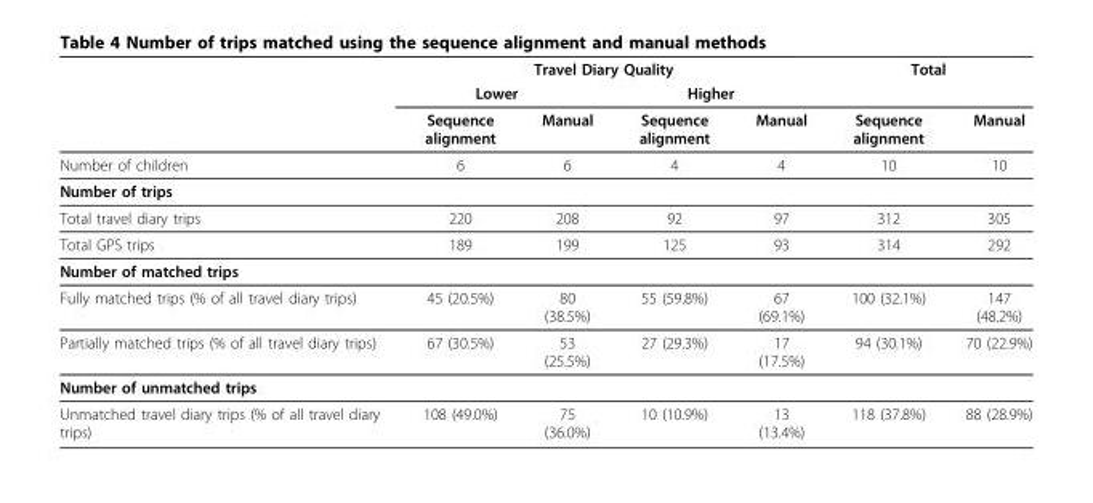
<table><thead><tr><td rowspan="3"></td><td colspan="4">Travel Diary Quality</td><td colspan="2">Total</td></tr><tr><td colspan="2">Lower</td><td colspan="2">Higher</td><td rowspan="2">Sequence alignment</td><td rowspan="2">Manual</td></tr><tr><td>Sequence alignment</td><td>Manual</td><td>Sequence alignment</td><td>Manual</td></tr></thead><tbody><tr><td>Number of children</td><td>6</td><td>6</td><td>4</td><td>4</td><td>10</td><td>10</td></tr><tr><td colspan="7">Number of trips</td></tr><tr><td>Total travel diary trips</td><td>220</td><td>208</td><td>92</td><td>97</td><td>312</td><td>305</td></tr><tr><td>Total GPS trips</td><td>189</td><td>199</td><td>125</td><td>93</td><td>314</td><td>292</td></tr><tr><td colspan="7">Number of matched trips</td></tr><tr><td>Fully matched trips (% of all travel diary trips)</td><td>45 (20.5%)</td><td>80 (38.5%)</td><td>55 (59.8%)</td><td>67 (69.1%)</td><td>100 (32.1%)</td><td>147 (48.2%)</td></tr><tr><td>Partially matched trips (% of all travel diary trips)</td><td>67 (30.5%)</td><td>53 (25.5%)</td><td>27 (29.3%)</td><td>17 (17.5%)</td><td>94 (30.1%)</td><td>70 (22.9%)</td></tr><tr><td colspan="7">Number of unmatched trips</td></tr><tr><td>Unmatched travel diary trips (% of all travel diary trips)</td><td>108 (49.0%)</td><td>75 (36.0%)</td><td>10 (10.9%)</td><td>13 (13.4%)</td><td>118 (37.8%)</td><td>88 (28.9%)</td></tr></tbody></table>